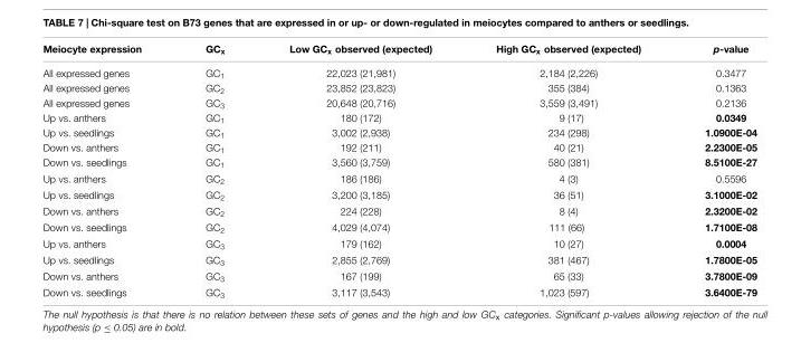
<table><thead><tr><td>Meiocyte expression</td><td>GC<sub>x</sub></td><td>Low GC<sub>x</sub> observed (expected)</td><td>High GC<sub>x</sub> observed (expected)</td><td>p-value</td></tr></thead><tbody><tr><td>All expressed genes</td><td>GC<sub>1</sub></td><td>22,023 (21,981)</td><td>2,184 (2,226)</td><td>0.3477</td></tr><tr><td>All expressed genes</td><td>GC<sub>2</sub></td><td>23,852 (23,823)</td><td>355 (384)</td><td>0.1363</td></tr><tr><td>All expressed genes</td><td>GC<sub>3</sub></td><td>20,648 (20,716)</td><td>3,559 (3,491)</td><td>0.2136</td></tr><tr><td>Up vs. anthers</td><td>GC<sub>1</sub></td><td>180 (172)</td><td>9 (17)</td><td>0.0349</td></tr><tr><td>Up vs. seedlings</td><td>GC<sub>1</sub></td><td>3,002 (2,938)</td><td>234 (298)</td><td>1.0900E-04</td></tr><tr><td>Down vs. anthers</td><td>GC<sub>1</sub></td><td>192 (211)</td><td>40 (21)</td><td>2.2300E-05</td></tr><tr><td>Down vs. seedlings</td><td>GC<sub>1</sub></td><td>3,560 (3,759)</td><td>580 (381)</td><td>8.5100E-27</td></tr><tr><td>Up vs. anthers</td><td>GC<sub>2</sub></td><td>186 (186)</td><td>4 (3)</td><td>0.5596</td></tr><tr><td>Up vs. seedlings</td><td>GC<sub>2</sub></td><td>3,200 (3,185)</td><td>36 (51)</td><td>3.1000E-02</td></tr><tr><td>Down vs. anthers</td><td>GC<sub>2</sub></td><td>224 (228)</td><td>8 (4)</td><td>2.3200E-02</td></tr><tr><td>Down vs. seedlings</td><td>GC<sub>2</sub></td><td>4,029 (4,074)</td><td>111 (66)</td><td>1.7100E-08</td></tr><tr><td>Up vs. anthers</td><td>GC<sub>3</sub></td><td>179 (162)</td><td>10 (27)</td><td>0.0004</td></tr><tr><td>Up vs. seedlings</td><td>GC<sub>3</sub></td><td>2,855 (2,769)</td><td>381 (467)</td><td>1.7800E-05</td></tr><tr><td>Down vs. anthers</td><td>GC<sub>3</sub></td><td>167 (199)</td><td>65 (33)</td><td>3.7800E-09</td></tr><tr><td>Down vs. seedlings</td><td>GC<sub>3</sub></td><td>3,117 (3,543)</td><td>1,023 (597)</td><td>3.6400E-79</td></tr></tbody></table>